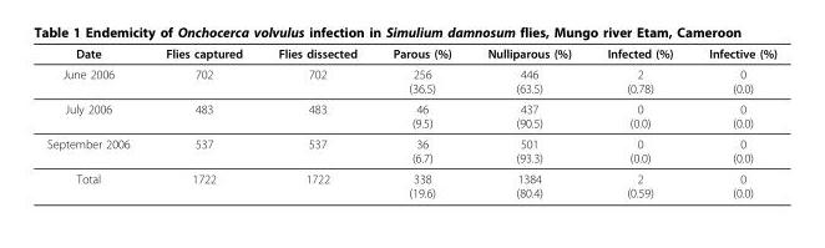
<table><thead><tr><td>Date</td><td>Flies captured</td><td>Flies dissected</td><td>Parous (%)</td><td>Nulliparous (%)</td><td>Infected (%)</td><td>Infective (%)</td></tr></thead><tbody><tr><td>June 2006</td><td>702</td><td>702</td><td>256 (36.5)</td><td>446 (63.5)</td><td>2 (0.78)</td><td>0 (0.0)</td></tr><tr><td>July 2006</td><td>483</td><td>483</td><td>46 (9.5)</td><td>437 (90.5)</td><td>0 (0.0)</td><td>0 (0.0)</td></tr><tr><td>September 2006</td><td>537</td><td>537</td><td>36 (6.7)</td><td>501 (93.3)</td><td>0 (0.0)</td><td>0 (0.0)</td></tr><tr><td>Total</td><td>1722</td><td>1722</td><td>338 (19.6)</td><td>1384 (80.4)</td><td>2 (0.59)</td><td>0 (0.0)</td></tr></tbody></table>